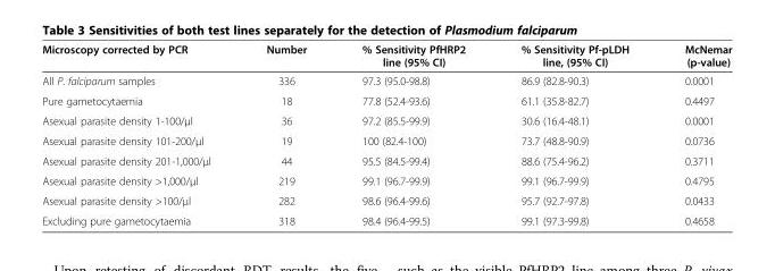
<table><thead><tr><td>Microscopy corrected by PCR</td><td>Number</td><td>% Sensitivity PfHRP2 line (95% CI)</td><td>% Sensitivity Pf-pLDH line, (95% CI)</td><td>McNemar (p-value)</td></tr></thead><tbody><tr><td>All P. falciparum samples</td><td>336</td><td>97.3 (95.0-98.8)</td><td>86.9 (82.8-90.3)</td><td>0.0001</td></tr><tr><td>Pure gametocytaemia</td><td>18</td><td>77.8 (52.4-93.6)</td><td>61.1 (35.8-82.7)</td><td>0.4497</td></tr><tr><td>Asexual parasite density 1-100/μl</td><td>36</td><td>97.2 (85.5-99.9)</td><td>30.6 (16.4-48.1)</td><td>0.0001</td></tr><tr><td>Asexual parasite density 101-200/μl</td><td>19</td><td>100 (82.4-100)</td><td>73.7 (48.8-90.9)</td><td>0.0736</td></tr><tr><td>Asexual parasite density 201-1,000/μl</td><td>44</td><td>95.5 (84.5-99.4)</td><td>88.6 (75.4-96.2)</td><td>0.3711</td></tr><tr><td>Asexual parasite density &gt;1,000/μl</td><td>219</td><td>99.1 (96.7-99.9)</td><td>99.1 (96.7-99.9)</td><td>0.4795</td></tr><tr><td>Asexual parasite density &gt;100/μl</td><td>282</td><td>98.6 (96.4-99.6)</td><td>95.7 (92.7-97.8)</td><td>0.0433</td></tr><tr><td>Excluding pure gametocytaemia</td><td>318</td><td>98.4 (96.4-99.5)</td><td>99.1 (97.3-99.8)</td><td>0.4658</td></tr></tbody></table>